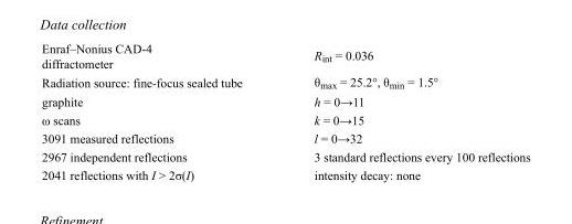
<table><tbody><tr><td>Enraf–Nonius CAD-4 diffractometer</td><td>R<sub>int</sub> = 0.036</td></tr><tr><td>Radiation source: fine-focus sealed tube</td><td>θ<sub>max</sub> = 25.2°, θ<sub>min</sub> = 1.5°</td></tr><tr><td>graphite</td><td>h = 0→11</td></tr><tr><td>ω scans</td><td>k = 0→15</td></tr><tr><td>3091 measured reflections</td><td>l = 0→32</td></tr><tr><td>2967 independent reflections</td><td>3 standard reflections every 100 reflections</td></tr><tr><td>2041 reflections with I &gt; 2σ(I)</td><td>intensity decay: none</td></tr></tbody></table>